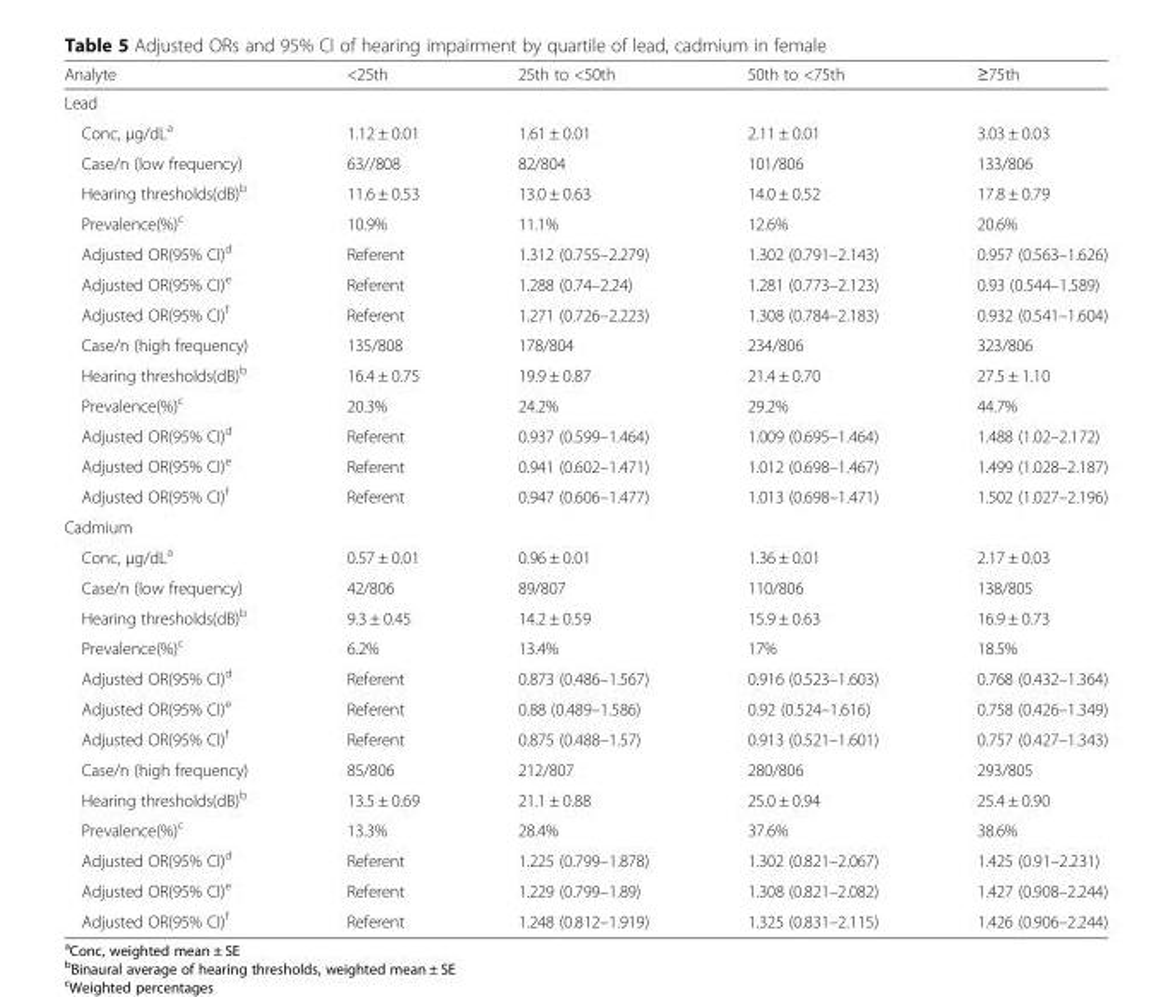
<table><thead><tr><td>Analyte</td><td>&lt;25th</td><td>25th to &lt;50th</td><td>50th to &lt;75th</td><td>≥75th</td></tr></thead><tbody><tr><td colspan="5">Lead</td></tr><tr><td>Conc, μg/dL<sup>a</sup></td><td>1.12 ± 0.01</td><td>1.61 ± 0.01</td><td>2.11 ± 0.01</td><td>3.03 ± 0.03</td></tr><tr><td>Case/n (low frequency)</td><td>63//808</td><td>82/804</td><td>101/806</td><td>133/806</td></tr><tr><td>Hearing thresholds(dB)<sup>b</sup></td><td>11.6 ± 0.53</td><td>13.0 ± 0.63</td><td>14.0 ± 0.52</td><td>17.8 ± 0.79</td></tr><tr><td>Prevalence(%)<sup>c</sup></td><td>10.9%</td><td>11.1%</td><td>12.6%</td><td>20.6%</td></tr><tr><td>Adjusted OR(95% CI)<sup>d</sup></td><td>Referent</td><td>1.312 (0.755–2.279)</td><td>1.302 (0.791–2.143)</td><td>0.957 (0.563–1.626)</td></tr><tr><td>Adjusted OR(95% CI)<sup>e</sup></td><td>Referent</td><td>1.288 (0.74–2.24)</td><td>1.281 (0.773–2.123)</td><td>0.93 (0.544–1.589)</td></tr><tr><td>Adjusted OR(95% CI)<sup>f</sup></td><td>Referent</td><td>1.271 (0.726–2.223)</td><td>1.308 (0.784–2.183)</td><td>0.932 (0.541–1.604)</td></tr><tr><td>Case/n (high frequency)</td><td>135/808</td><td>178/804</td><td>234/806</td><td>323/806</td></tr><tr><td>Hearing thresholds(dB)<sup>b</sup></td><td>16.4 ± 0.75</td><td>19.9 ± 0.87</td><td>21.4 ± 0.70</td><td>27.5 ± 1.10</td></tr><tr><td>Prevalence(%)<sup>c</sup></td><td>20.3%</td><td>24.2%</td><td>29.2%</td><td>44.7%</td></tr><tr><td>Adjusted OR(95% CI)<sup>d</sup></td><td>Referent</td><td>0.937 (0.599–1.464)</td><td>1.009 (0.695–1.464)</td><td>1.488 (1.02–2.172)</td></tr><tr><td>Adjusted OR(95% CI)<sup>e</sup></td><td>Referent</td><td>0.941 (0.602–1.471)</td><td>1.012 (0.698–1.467)</td><td>1.499 (1.028–2.187)</td></tr><tr><td>Adjusted OR(95% CI)<sup>f</sup></td><td>Referent</td><td>0.947 (0.606–1.477)</td><td>1.013 (0.698–1.471)</td><td>1.502 (1.027–2.196)</td></tr><tr><td colspan="5">Cadmium</td></tr><tr><td>Conc, μg/dL<sup>a</sup></td><td>0.57 ± 0.01</td><td>0.96 ± 0.01</td><td>1.36 ± 0.01</td><td>2.17 ± 0.03</td></tr><tr><td>Case/n (low frequency)</td><td>42/806</td><td>89/807</td><td>110/806</td><td>138/805</td></tr><tr><td>Hearing thresholds(dB)<sup>b</sup></td><td>9.3 ± 0.45</td><td>14.2 ± 0.59</td><td>15.9 ± 0.63</td><td>16.9 ± 0.73</td></tr><tr><td>Prevalence(%)<sup>c</sup></td><td>6.2%</td><td>13.4%</td><td>17%</td><td>18.5%</td></tr><tr><td>Adjusted OR(95% CI)<sup>d</sup></td><td>Referent</td><td>0.873 (0.486–1.567)</td><td>0.916 (0.523–1.603)</td><td>0.768 (0.432–1.364)</td></tr><tr><td>Adjusted OR(95% CI)<sup>e</sup></td><td>Referent</td><td>0.88 (0.489–1.586)</td><td>0.92 (0.524–1.616)</td><td>0.758 (0.426–1.349)</td></tr><tr><td>Adjusted OR(95% CI)<sup>f</sup></td><td>Referent</td><td>0.875 (0.488–1.57)</td><td>0.913 (0.521–1.601)</td><td>0.757 (0.427–1.343)</td></tr><tr><td>Case/n (high frequency)</td><td>85/806</td><td>212/807</td><td>280/806</td><td>293/805</td></tr><tr><td>Hearing thresholds(dB)<sup>b</sup></td><td>13.5 ± 0.69</td><td>21.1 ± 0.88</td><td>25.0 ± 0.94</td><td>25.4 ± 0.90</td></tr><tr><td>Prevalence(%)<sup>c</sup></td><td>13.3%</td><td>28.4%</td><td>37.6%</td><td>38.6%</td></tr><tr><td>Adjusted OR(95% CI)<sup>d</sup></td><td>Referent</td><td>1.225 (0.799–1.878)</td><td>1.302 (0.821–2.067)</td><td>1.425 (0.91–2.231)</td></tr><tr><td>Adjusted OR(95% CI)<sup>e</sup></td><td>Referent</td><td>1.229 (0.799–1.89)</td><td>1.308 (0.821–2.082)</td><td>1.427 (0.908–2.244)</td></tr><tr><td>Adjusted OR(95% CI)<sup>f</sup></td><td>Referent</td><td>1.248 (0.812–1.919)</td><td>1.325 (0.831–2.115)</td><td>1.426 (0.906–2.244)</td></tr></tbody></table>